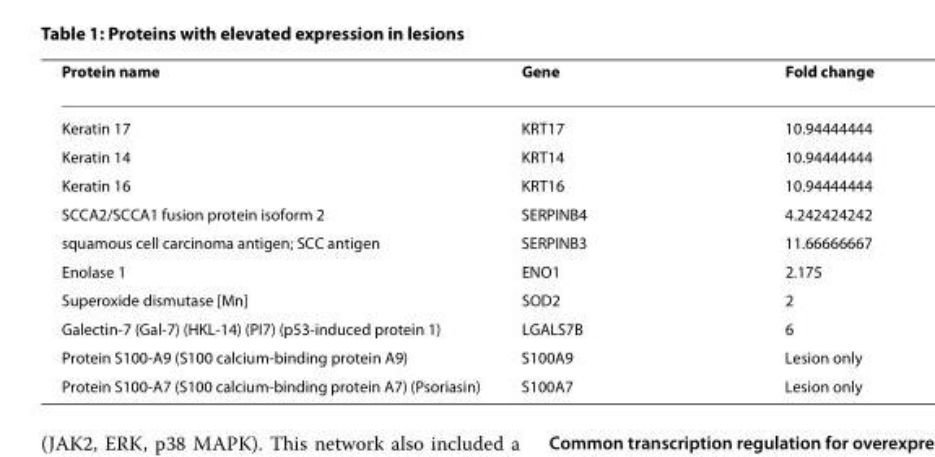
<table><thead><tr><td>Protein name</td><td>Gene</td><td>Fold change</td></tr></thead><tbody><tr><td>Keratin 17</td><td>KRT17</td><td>10.94444444</td></tr><tr><td>Keratin 14</td><td>KRT14</td><td>10.94444444</td></tr><tr><td>Keratin 16</td><td>KRT16</td><td>10.94444444</td></tr><tr><td>SCCA2/SCCA1 fusion protein isoform 2</td><td>SERPINB4</td><td>4.242424242</td></tr><tr><td>squamous cell carcinoma antigen; SCC antigen</td><td>SERPINB3</td><td>11.66666667</td></tr><tr><td>Enolase 1</td><td>ENO1</td><td>2.175</td></tr><tr><td>Superoxide dismutase [Mn]</td><td>SOD2</td><td>2</td></tr><tr><td>Galectin-7 (Gal-7) (HKL-14) (PI7) (p53-induced protein 1)</td><td>LGALS7B</td><td>6</td></tr><tr><td>Protein S100-A9 (S100 calcium-binding protein A9)</td><td>S100A9</td><td>Lesion only</td></tr><tr><td>Protein S100-A7 (S100 calcium-binding protein A7) (Psoriasin)</td><td>S100A7</td><td>Lesion only</td></tr></tbody></table>